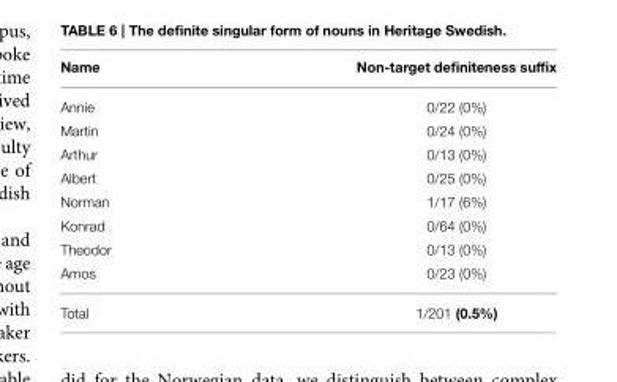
<table><thead><tr><td>Name</td><td>Non-target definiteness suffix</td></tr></thead><tbody><tr><td>Annie</td><td>0/22 (0%)</td></tr><tr><td>Martin</td><td>0/24 (0%)</td></tr><tr><td>Arthur</td><td>0/13 (0%)</td></tr><tr><td>Albert</td><td>0/25 (0%)</td></tr><tr><td>Norman</td><td>1/17 (6%)</td></tr><tr><td>Konrad</td><td>0/64 (0%)</td></tr><tr><td>Theodor</td><td>0/13 (0%)</td></tr><tr><td>Amos</td><td>0/23 (0%)</td></tr><tr><td>Total</td><td>1/201 (0.5%)</td></tr></tbody></table>